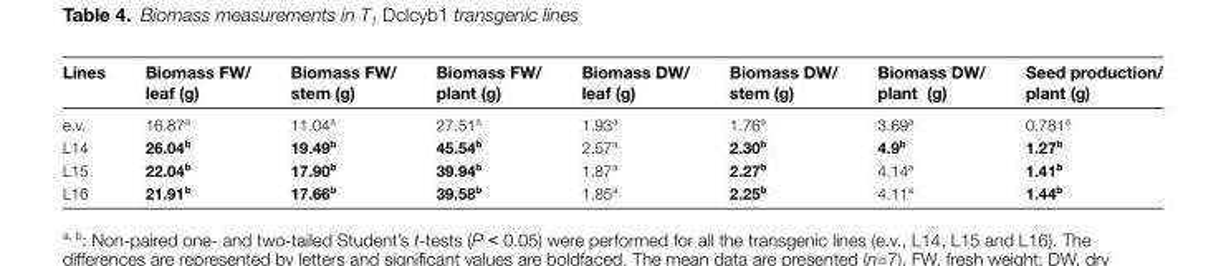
<table><thead><tr><td>Lines</td><td>Biomass FW/ leaf (g)</td><td>Biomass FW/ stem (g)</td><td>Biomass FW/ plant (g)</td><td>Biomass DW/ leaf (g)</td><td>Biomass DW/ stem (g)</td><td>Biomass DW/ plant (g)</td><td>Seed production/ plant (g)</td></tr></thead><tbody><tr><td>e.v.</td><td>16.87<sup>a</sup></td><td>11.04<sup>a</sup></td><td>27.51<sup>a</sup></td><td>1.93<sup>a</sup></td><td>1.76<sup>a</sup></td><td>3.69<sup>a</sup></td><td>0.781<sup>a</sup></td></tr><tr><td>L14</td><td>26.04<sup>b</sup></td><td>19.49<sup>b</sup></td><td>45.54<sup>b</sup></td><td>2.57<sup>a</sup></td><td>2.30<sup>b</sup></td><td>4.9<sup>b</sup></td><td>1.27<sup>b</sup></td></tr><tr><td>L15</td><td>22.04<sup>b</sup></td><td>17.90<sup>b</sup></td><td>39.94<sup>b</sup></td><td>1.87<sup>a</sup></td><td>2.27<sup>b</sup></td><td>4.14<sup>a</sup></td><td>1.41<sup>b</sup></td></tr><tr><td>L16</td><td>21.91<sup>b</sup></td><td>17.66<sup>b</sup></td><td>39.58<sup>b</sup></td><td>1.85<sup>a</sup></td><td>2.25<sup>b</sup></td><td>4.11<sup>a</sup></td><td>1.44<sup>b</sup></td></tr></tbody></table>